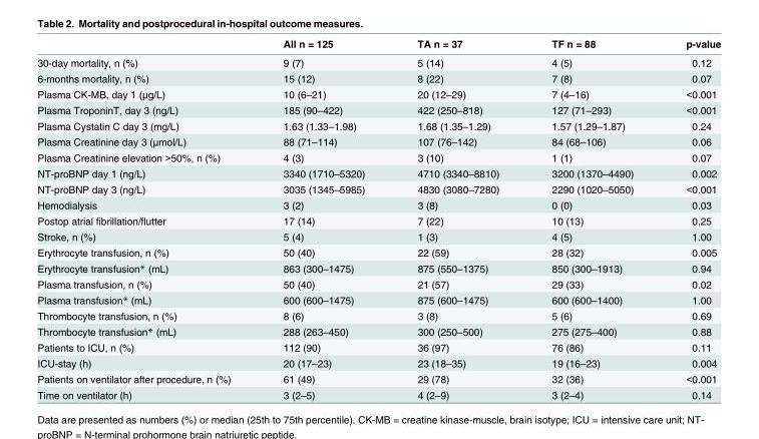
<table><thead><tr><td></td><td>All n = 125</td><td>TA n = 37</td><td>TF n = 88</td><td>p-value</td></tr></thead><tbody><tr><td>30-day mortality, n (%)</td><td>9 (7)</td><td>5 (14)</td><td>4 (5)</td><td>0.12</td></tr><tr><td>6-months mortality, n (%)</td><td>15 (12)</td><td>8 (22)</td><td>7 (8)</td><td>0.07</td></tr><tr><td>Plasma CK-MB, day 1 (μg/L)</td><td>10 (6–21)</td><td>20 (12–29)</td><td>7 (4–16)</td><td>&lt;0.001</td></tr><tr><td>Plasma TroponinT, day 3 (ng/L)</td><td>185 (90–422)</td><td>422 (250–818)</td><td>127 (71–293)</td><td>&lt;0.001</td></tr><tr><td>Plasma Cystatin C day 3 (mg/L)</td><td>1.63 (1.33–1.98)</td><td>1.68 (1.35–1.29)</td><td>1.57 (1.29–1.87)</td><td>0.24</td></tr><tr><td>Plasma Creatinine day 3 (μmol/L)</td><td>88 (71–114)</td><td>107 (76–142)</td><td>84 (68–106)</td><td>0.06</td></tr><tr><td>Plasma Creatinine elevation &gt;50%, n (%)</td><td>4 (3)</td><td>3 (10)</td><td>1 (1)</td><td>0.07</td></tr><tr><td>NT-proBNP day 1 (ng/L)</td><td>3340 (1710–5320)</td><td>4710 (3340–8810)</td><td>3200 (1370–4490)</td><td>0.002</td></tr><tr><td>NT-proBNP day 3 (ng/L)</td><td>3035 (1345–5985)</td><td>4830 (3080–7280)</td><td>2290 (1020–5050)</td><td>&lt;0.001</td></tr><tr><td>Hemodialysis</td><td>3 (2)</td><td>3 (8)</td><td>0 (0)</td><td>0.03</td></tr><tr><td>Postop atrial fibrillation/flutter</td><td>17 (14)</td><td>7 (22)</td><td>10 (13)</td><td>0.25</td></tr><tr><td>Stroke, n (%)</td><td>5 (4)</td><td>1 (3)</td><td>4 (5)</td><td>1.00</td></tr><tr><td>Erythrocyte transfusion, n (%)</td><td>50 (40)</td><td>22 (59)</td><td>28 (32)</td><td>0.005</td></tr><tr><td>Erythrocyte transfusion* (mL)</td><td>863 (300–1475)</td><td>875 (550–1375)</td><td>850 (300–1913)</td><td>0.94</td></tr><tr><td>Plasma transfusion, n (%)</td><td>50 (40)</td><td>21 (57)</td><td>29 (33)</td><td>0.02</td></tr><tr><td>Plasma transfusion* (mL)</td><td>600 (600–1475)</td><td>875 (600–1475)</td><td>600 (600–1400)</td><td>1.00</td></tr><tr><td>Thrombocyte transfusion, n (%)</td><td>8 (6)</td><td>3 (8)</td><td>5 (6)</td><td>0.69</td></tr><tr><td>Thrombocyte transfusion* (mL)</td><td>288 (263–450)</td><td>300 (250–500)</td><td>275 (275–400)</td><td>0.88</td></tr><tr><td>Patients to ICU, n (%)</td><td>112 (90)</td><td>36 (97)</td><td>76 (86)</td><td>0.11</td></tr><tr><td>ICU-stay (h)</td><td>20 (17–23)</td><td>23 (18–35)</td><td>19 (16–23)</td><td>0.004</td></tr><tr><td>Patients on ventilator after procedure, n (%)</td><td>61 (49)</td><td>29 (78)</td><td>32 (36)</td><td>&lt;0.001</td></tr><tr><td>Time on ventilator (h)</td><td>3 (2–5)</td><td>4 (2–9)</td><td>3 (2–4)</td><td>0.14</td></tr></tbody></table>